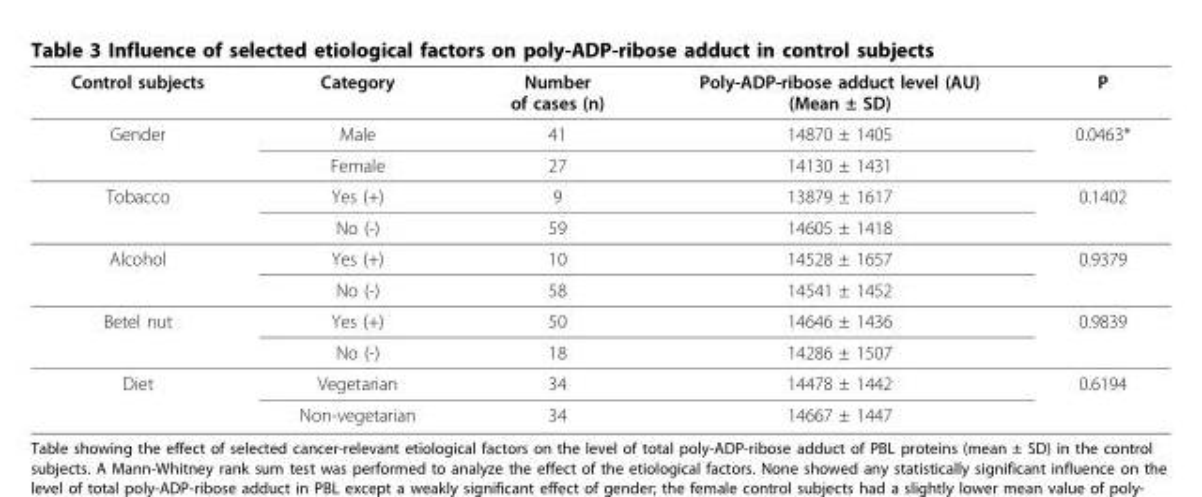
<table><thead><tr><td>Control subjects</td><td>Category</td><td>Number of cases (n)</td><td>Poly-ADP-ribose adduct level (AU) (Mean ± SD)</td><td>P</td></tr></thead><tbody><tr><td rowspan="2">Gender</td><td>Male</td><td>41</td><td>14870 ± 1405</td><td>0.0463*</td></tr><tr><td>Female</td><td>27</td><td>14130 ± 1431</td><td></td></tr><tr><td rowspan="2">Tobacco</td><td>Yes (+)</td><td>9</td><td>13879 ± 1617</td><td>0.1402</td></tr><tr><td>No (-)</td><td>59</td><td>14605 ± 1418</td><td></td></tr><tr><td rowspan="2">Alcohol</td><td>Yes (+)</td><td>10</td><td>14528 ± 1657</td><td>0.9379</td></tr><tr><td>No (-)</td><td>58</td><td>14541 ± 1452</td><td></td></tr><tr><td rowspan="2">Betel nut</td><td>Yes (+)</td><td>50</td><td>14646 ± 1436</td><td>0.9839</td></tr><tr><td>No (-)</td><td>18</td><td>14286 ± 1507</td><td></td></tr><tr><td rowspan="2">Diet</td><td>Vegetarian</td><td>34</td><td>14478 ± 1442</td><td>0.6194</td></tr><tr><td>Non-vegetarian</td><td>34</td><td>14667 ± 1447</td><td></td></tr></tbody></table>